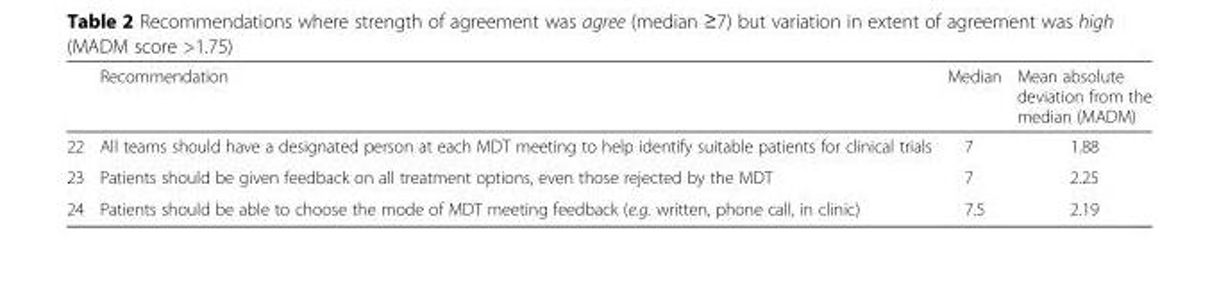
<table><thead><tr><td></td><td>Recommendation</td><td>Median</td><td>Mean absolute deviation from the median (MADM)</td></tr></thead><tbody><tr><td>22</td><td>All teams should have a designated person at each MDT meeting to help identify suitable patients for clinical trials</td><td>7</td><td>1.88</td></tr><tr><td>23</td><td>Patients should be given feedback on all treatment options, even those rejected by the MDT</td><td>7</td><td>2.25</td></tr><tr><td>24</td><td>Patients should be able to choose the mode of MDT meeting feedback (e.g. written, phone call, in clinic)</td><td>7.5</td><td>2.19</td></tr></tbody></table>